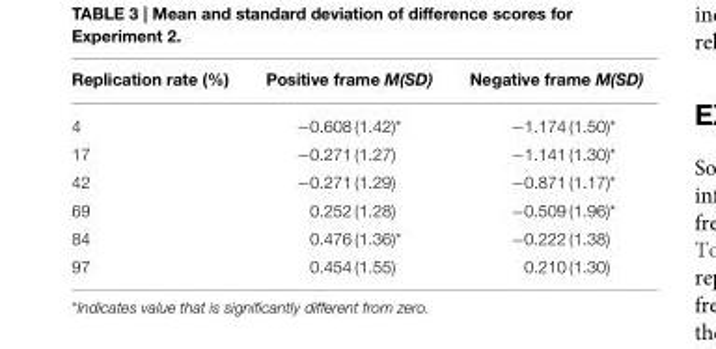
<table><thead><tr><td>Replication rate (%)</td><td>Positive frame M(SD)</td><td>Negative frame M(SD)</td></tr></thead><tbody><tr><td>4</td><td>−0.608 (1.42)*</td><td>−1.174 (1.50)*</td></tr><tr><td>17</td><td>−0.271 (1.27)</td><td>−1.141 (1.30)*</td></tr><tr><td>42</td><td>−0.271 (1.29)</td><td>−0.871 (1.17)*</td></tr><tr><td>69</td><td>0.252 (1.28)</td><td>−0.509 (1.96)*</td></tr><tr><td>84</td><td>0.476 (1.36)*</td><td>−0.222 (1.38)</td></tr><tr><td>97</td><td>0.454 (1.55)</td><td>0.210 (1.30)</td></tr></tbody></table>